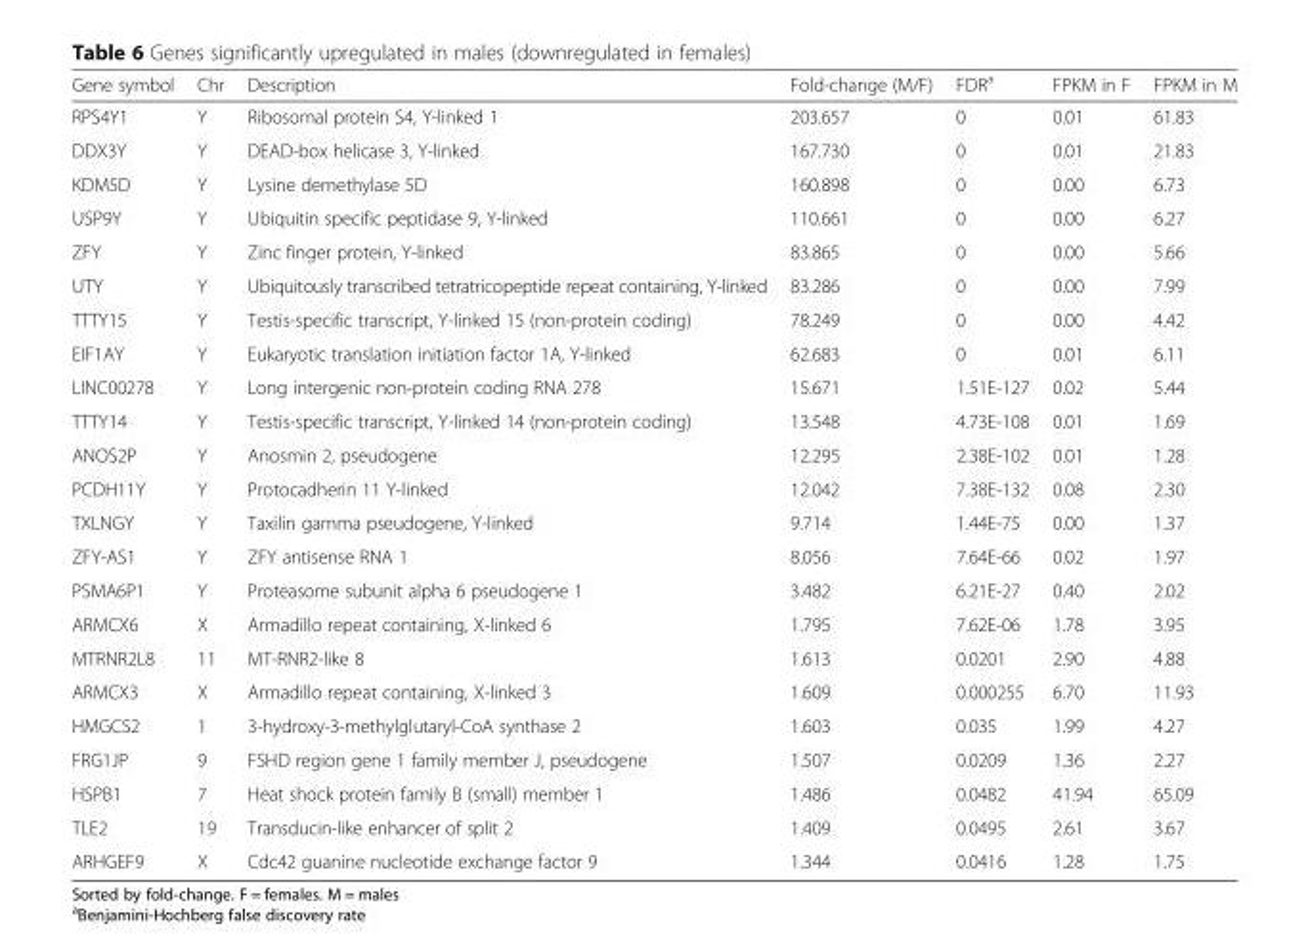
<table><thead><tr><td>Gene symbol</td><td>Chr</td><td>Description</td><td>Fold-change (M/F)</td><td>FDR<sup>a</sup></td><td>FPKM in F</td><td>FPKM in M</td></tr></thead><tbody><tr><td>RPS4Y1</td><td>Y</td><td>Ribosomal protein S4, Y-linked 1</td><td>203.657</td><td>0</td><td>0.01</td><td>61.83</td></tr><tr><td>DDX3Y</td><td>Y</td><td>DEAD-box helicase 3, Y-linked</td><td>167.730</td><td>0</td><td>0.01</td><td>21.83</td></tr><tr><td>KDM5D</td><td>Y</td><td>Lysine demethylase 5D</td><td>160.898</td><td>0</td><td>0.00</td><td>6.73</td></tr><tr><td>USP9Y</td><td>Y</td><td>Ubiquitin specific peptidase 9, Y-linked</td><td>110.661</td><td>0</td><td>0.00</td><td>6.27</td></tr><tr><td>ZFY</td><td>Y</td><td>Zinc finger protein, Y-linked</td><td>83.865</td><td>0</td><td>0.00</td><td>5.66</td></tr><tr><td>UTY</td><td>Y</td><td>Ubiquitously transcribed tetratricopeptide repeat containing, Y-linked</td><td>83.286</td><td>0</td><td>0.00</td><td>7.99</td></tr><tr><td>TTTY15</td><td>Y</td><td>Testis-specific transcript, Y-linked 15 (non-protein coding)</td><td>78.249</td><td>0</td><td>0.00</td><td>4.42</td></tr><tr><td>EIF1AY</td><td>Y</td><td>Eukaryotic translation initiation factor 1A, Y-linked</td><td>62.683</td><td>0</td><td>0.01</td><td>6.11</td></tr><tr><td>LINC00278</td><td>Y</td><td>Long intergenic non-protein coding RNA 278</td><td>15.671</td><td>1.51E-127</td><td>0.02</td><td>5.44</td></tr><tr><td>TTTY14</td><td>Y</td><td>Testis-specific transcript, Y-linked 14 (non-protein coding)</td><td>13.548</td><td>4.73E-108</td><td>0.01</td><td>1.69</td></tr><tr><td>ANOS2P</td><td>Y</td><td>Anosmin 2, pseudogene</td><td>12.295</td><td>2.38E-102</td><td>0.01</td><td>1.28</td></tr><tr><td>PCDH11Y</td><td>Y</td><td>Protocadherin 11 Y-linked</td><td>12.042</td><td>7.38E-132</td><td>0.08</td><td>2.30</td></tr><tr><td>TXLNGY</td><td>Y</td><td>Taxilin gamma pseudogene, Y-linked</td><td>9.714</td><td>1.44E-75</td><td>0.00</td><td>1.37</td></tr><tr><td>ZFY-AS1</td><td>Y</td><td>ZFY antisense RNA 1</td><td>8.056</td><td>7.64E-66</td><td>0.02</td><td>1.97</td></tr><tr><td>PSMA6P1</td><td>Y</td><td>Proteasome subunit alpha 6 pseudogene 1</td><td>3.482</td><td>6.21E-27</td><td>0.40</td><td>2.02</td></tr><tr><td>ARMCX6</td><td>X</td><td>Armadillo repeat containing, X-linked 6</td><td>1.795</td><td>7.62E-06</td><td>1.78</td><td>3.95</td></tr><tr><td>MTRNR2L8</td><td>11</td><td>MT-RNR2-like 8</td><td>1.613</td><td>0.0201</td><td>2.90</td><td>4.88</td></tr><tr><td>ARMCX3</td><td>X</td><td>Armadillo repeat containing, X-linked 3</td><td>1.609</td><td>0.000255</td><td>6.70</td><td>11.93</td></tr><tr><td>HMGCS2</td><td>1</td><td>3-hydroxy-3-methylglutaryl-CoA synthase 2</td><td>1.603</td><td>0.035</td><td>1.99</td><td>4.27</td></tr><tr><td>FRG1JP</td><td>9</td><td>FSHD region gene 1 family member J, pseudogene</td><td>1.507</td><td>0.0209</td><td>1.36</td><td>2.27</td></tr><tr><td>HSPB1</td><td>7</td><td>Heat shock protein family B (small) member 1</td><td>1.486</td><td>0.0482</td><td>41.94</td><td>65.09</td></tr><tr><td>TLE2</td><td>19</td><td>Transducin-like enhancer of split 2</td><td>1.409</td><td>0.0495</td><td>2.61</td><td>3.67</td></tr><tr><td>ARHGEF9</td><td>X</td><td>Cdc42 guanine nucleotide exchange factor 9</td><td>1.344</td><td>0.0416</td><td>1.28</td><td>1.75</td></tr></tbody></table>